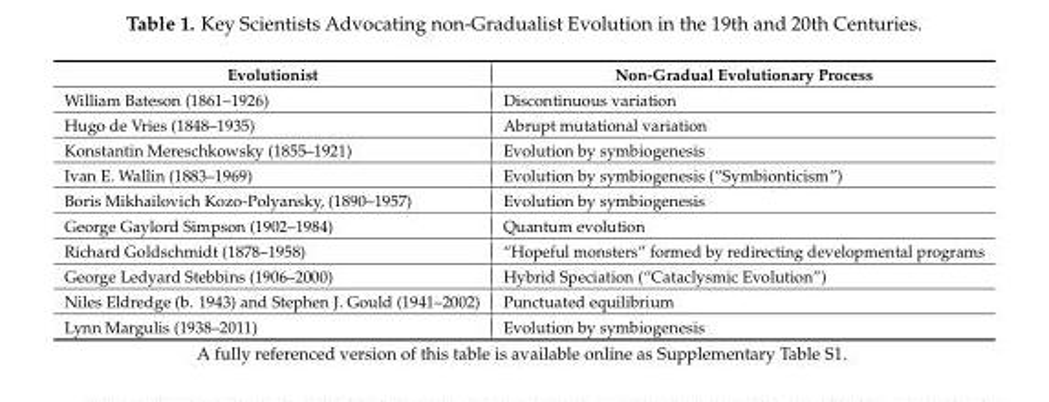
<table><thead><tr><td>Evolutionist</td><td>Non-Gradual Evolutionary Process</td></tr></thead><tbody><tr><td>William Bateson (1861–1926)</td><td>Discontinuous variation</td></tr><tr><td>Hugo de Vries (1848–1935)</td><td>Abrupt mutational variation</td></tr><tr><td>Konstantin Mereschkowsky (1855–1921)</td><td>Evolution by symbiogenesis</td></tr><tr><td>Ivan E. Wallin (1883–1969)</td><td>Evolution by symbiogenesis (“Symbionticism”)</td></tr><tr><td>Boris Mikhailovich Kozo-Polyansky, (1890–1957)</td><td>Evolution by symbiogenesis</td></tr><tr><td>George Gaylord Simpson (1902–1984)</td><td>Quantum evolution</td></tr><tr><td>Richard Goldschmidt (1878–1958)</td><td>“Hopeful monsters” formed by redirecting developmental programs</td></tr><tr><td>George Ledyard Stebbins (1906–2000)</td><td>Hybrid Speciation (“Cataclysmic Evolution”)</td></tr><tr><td>Niles Eldredge (b. 1943) and Stephen J. Gould (1941–2002)</td><td>Punctuated equilibrium</td></tr><tr><td>Lynn Margulis (1938–2011)</td><td>Evolution by symbiogenesis</td></tr></tbody></table>